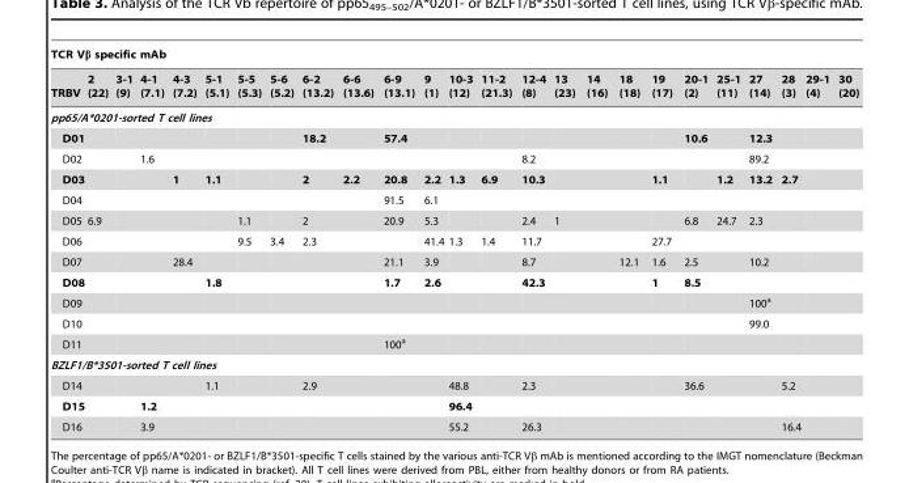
<table><thead><tr><td colspan="25">TCR Vβ specific mAb</td></tr><tr><td>TRBV</td><td>2 (22)</td><td>3-1 (9)</td><td>4-1 (7.1)</td><td>4-3 (7.2)</td><td>5-1 (5.1)</td><td>5-5 (5.3)</td><td>5-6 (5.2)</td><td>6-2 (13.2)</td><td>6-6 (13.6)</td><td>6-9 (13.1)</td><td>9 (1)</td><td>10-3 (12)</td><td>11-2 (21.3)</td><td>12-4 (8)</td><td>13 (23)</td><td>14 (16)</td><td>18 (18)</td><td>19 (17)</td><td>20-1 (2)</td><td>25-1 (11)</td><td>27 (14)</td><td>28 (3)</td><td>29-1 (4)</td><td>30 (20)</td></tr></thead><tbody><tr><td colspan="25">pp65/A*0201-sorted T cell lines</td></tr><tr><td>D01</td><td></td><td></td><td></td><td></td><td></td><td></td><td></td><td>18.2</td><td></td><td>57.4</td><td></td><td></td><td></td><td></td><td></td><td></td><td></td><td></td><td>10.6</td><td></td><td>12.3</td><td></td><td></td><td></td></tr><tr><td>D02</td><td></td><td></td><td>1.6</td><td></td><td></td><td></td><td></td><td></td><td></td><td></td><td></td><td></td><td></td><td>8.2</td><td></td><td></td><td></td><td></td><td></td><td></td><td>89.2</td><td></td><td></td><td></td></tr><tr><td>D03</td><td></td><td></td><td></td><td>1</td><td>1.1</td><td></td><td></td><td>2</td><td>2.2</td><td>20.8</td><td>2.2</td><td>1.3</td><td>6.9</td><td>10.3</td><td></td><td></td><td></td><td>1.1</td><td></td><td>1.2</td><td>13.2</td><td>2.7</td><td></td><td></td></tr><tr><td>D04</td><td></td><td></td><td></td><td></td><td></td><td></td><td></td><td></td><td></td><td>91.5</td><td>6.1</td><td></td><td></td><td></td><td></td><td></td><td></td><td></td><td></td><td></td><td></td><td></td><td></td><td></td></tr><tr><td>D05</td><td>6.9</td><td></td><td></td><td></td><td></td><td>1.1</td><td></td><td>2</td><td></td><td>20.9</td><td>5.3</td><td></td><td></td><td>2.4</td><td>1</td><td></td><td></td><td></td><td>6.8</td><td>24.7</td><td>2.3</td><td></td><td></td><td></td></tr><tr><td>D06</td><td></td><td></td><td></td><td></td><td></td><td>9.5</td><td>3.4</td><td>2.3</td><td></td><td></td><td>41.4</td><td>1.3</td><td>1.4</td><td>11.7</td><td></td><td></td><td></td><td>27.7</td><td></td><td></td><td></td><td></td><td></td><td></td></tr><tr><td>D07</td><td></td><td></td><td></td><td>28.4</td><td></td><td></td><td></td><td></td><td></td><td>21.1</td><td>3.9</td><td></td><td></td><td>8.7</td><td></td><td></td><td>12.1</td><td>1.6</td><td>2.5</td><td></td><td>10.2</td><td></td><td></td><td></td></tr><tr><td>D08</td><td></td><td></td><td></td><td></td><td>1.8</td><td></td><td></td><td></td><td></td><td>1.7</td><td>2.6</td><td></td><td></td><td>42.3</td><td></td><td></td><td></td><td>1</td><td>8.5</td><td></td><td></td><td></td><td></td><td></td></tr><tr><td>D09</td><td></td><td></td><td></td><td></td><td></td><td></td><td></td><td></td><td></td><td></td><td></td><td></td><td></td><td></td><td></td><td></td><td></td><td></td><td></td><td></td><td>100<sup>a</sup></td><td></td><td></td><td></td></tr><tr><td>D10</td><td></td><td></td><td></td><td></td><td></td><td></td><td></td><td></td><td></td><td></td><td></td><td></td><td></td><td></td><td></td><td></td><td></td><td></td><td></td><td></td><td>99.0</td><td></td><td></td><td></td></tr><tr><td>D11</td><td></td><td></td><td></td><td></td><td></td><td></td><td></td><td></td><td></td><td>100<sup>a</sup></td><td></td><td></td><td></td><td></td><td></td><td></td><td></td><td></td><td></td><td></td><td></td><td></td><td></td><td></td></tr><tr><td colspan="25">BZLF1/B*3501-sorted T cell lines</td></tr><tr><td>D14</td><td></td><td></td><td></td><td></td><td>1.1</td><td></td><td></td><td>2.9</td><td></td><td></td><td></td><td>48.8</td><td></td><td>2.3</td><td></td><td></td><td></td><td></td><td>36.6</td><td></td><td></td><td>5.2</td><td></td><td></td></tr><tr><td>D15</td><td></td><td></td><td>1.2</td><td></td><td></td><td></td><td></td><td></td><td></td><td></td><td></td><td>96.4</td><td></td><td></td><td></td><td></td><td></td><td></td><td></td><td></td><td></td><td></td><td></td><td></td></tr><tr><td>D16</td><td></td><td></td><td>3.9</td><td></td><td></td><td></td><td></td><td></td><td></td><td></td><td></td><td>55.2</td><td></td><td>26.3</td><td></td><td></td><td></td><td></td><td></td><td></td><td></td><td>16.4</td><td></td><td></td></tr></tbody></table>